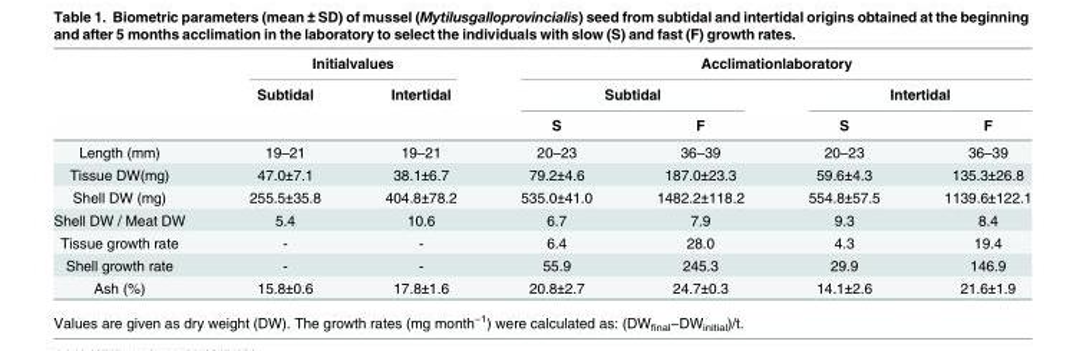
<table><thead><tr><td rowspan="3"></td><td colspan="2">Initialvalues</td><td colspan="4">Acclimationlaboratory</td></tr><tr><td rowspan="2">Subtidal</td><td rowspan="2">Intertidal</td><td colspan="2">Subtidal</td><td colspan="2">Intertidal</td></tr><tr><td>S</td><td>F</td><td>S</td><td>F</td></tr></thead><tbody><tr><td>Length (mm)</td><td>19–21</td><td>19–21</td><td>20–23</td><td>36–39</td><td>20–23</td><td>36–39</td></tr><tr><td>Tissue DW(mg)</td><td>47.0±7.1</td><td>38.1±6.7</td><td>79.2±4.6</td><td>187.0±23.3</td><td>59.6±4.3</td><td>135.3±26.8</td></tr><tr><td>Shell DW (mg)</td><td>255.5±35.8</td><td>404.8±78.2</td><td>535.0±41.0</td><td>1482.2±118.2</td><td>554.8±57.5</td><td>1139.6±122.1</td></tr><tr><td>Shell DW / Meat DW</td><td>5.4</td><td>10.6</td><td>6.7</td><td>7.9</td><td>9.3</td><td>8.4</td></tr><tr><td>Tissue growth rate</td><td>-</td><td>-</td><td>6.4</td><td>28.0</td><td>4.3</td><td>19.4</td></tr><tr><td>Shell growth rate</td><td>-</td><td>-</td><td>55.9</td><td>245.3</td><td>29.9</td><td>146.9</td></tr><tr><td>Ash (%)</td><td>15.8±0.6</td><td>17.8±1.6</td><td>20.8±2.7</td><td>24.7±0.3</td><td>14.1±2.6</td><td>21.6±1.9</td></tr></tbody></table>